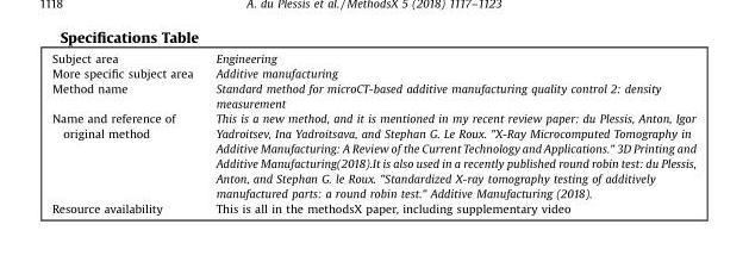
<table><tbody><tr><td>Subject area</td><td>Engineering</td></tr><tr><td>More specific subject area</td><td>Additive manufacturing</td></tr><tr><td>Method name</td><td>Standard method for microCT-based additive manufacturing quality control 2: density measurement</td></tr><tr><td>Name and reference of original method</td><td>This is a new method, and it is mentioned in my recent review paper: du Plessis, Anton, Igor Yadroitsev, Ina Yadroitsava, and Stephan G. Le Roux. &quot;X-Ray Microcomputed Tomography in Additive Manufacturing: A Review of the Current Technology and Applications.&quot; 3D Printing and Additive Manufacturing(2018).It is also used in a recently published round robin test: du Plessis, Anton, and Stephan G. le Roux. &quot;Standardized X-ray tomography testing of additively manufactured parts: a round robin test.&quot; Additive Manufacturing (2018).</td></tr><tr><td>Resource availability</td><td>This is all in the methodsX paper, including supplementary video</td></tr></tbody></table>